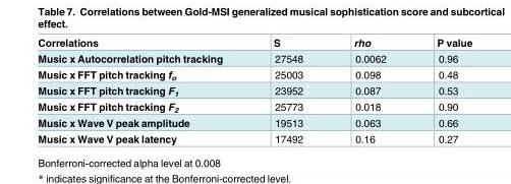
<table><thead><tr><td>Correlations</td><td>S</td><td>rho</td><td>P value</td></tr></thead><tbody><tr><td>Music x Autocorrelation pitch tracking</td><td>27548</td><td>0.0062</td><td>0.96</td></tr><tr><td>Music x FFT pitch tracking f<sub>o</sub></td><td>25003</td><td>0.098</td><td>0.48</td></tr><tr><td>Music x FFT pitch tracking F<sub>1</sub></td><td>23952</td><td>0.087</td><td>0.53</td></tr><tr><td>Music x FFT pitch tracking F<sub>2</sub></td><td>25773</td><td>0.018</td><td>0.90</td></tr><tr><td>Music x Wave V peak amplitude</td><td>19513</td><td>0.063</td><td>0.66</td></tr><tr><td>Music x Wave V peak latency</td><td>17492</td><td>0.16</td><td>0.27</td></tr></tbody></table>